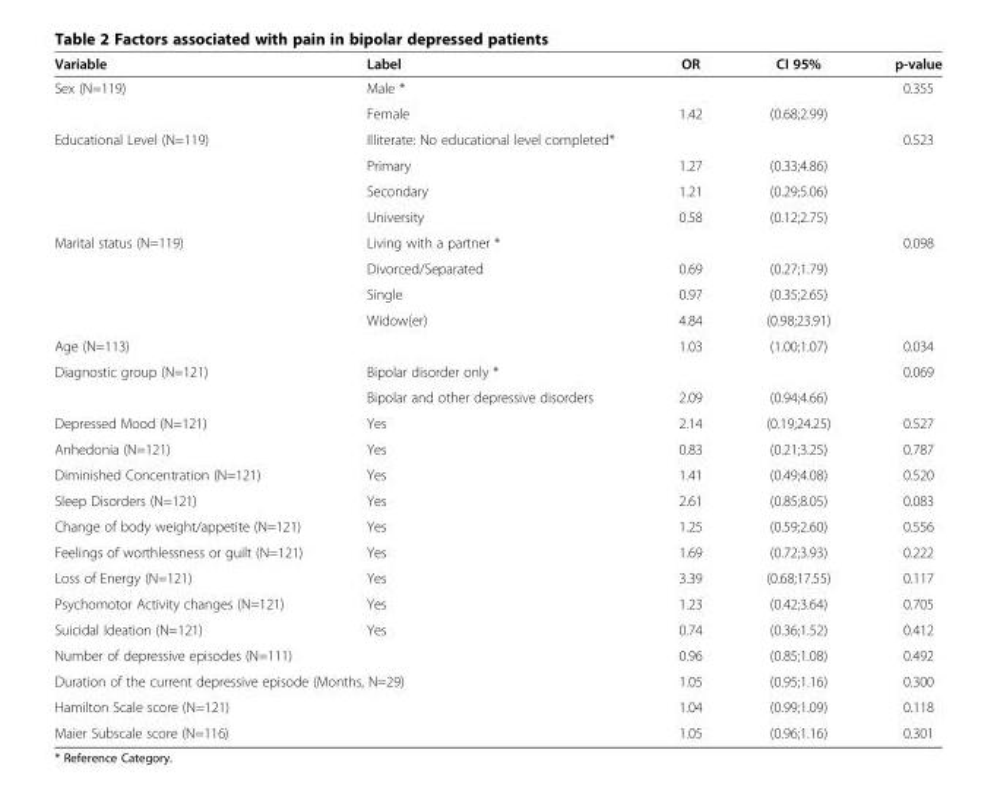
<table><thead><tr><td>Variable</td><td>Label</td><td>OR</td><td>CI 95%</td><td>p-value</td></tr></thead><tbody><tr><td rowspan="2">Sex (N=119)</td><td>Male *</td><td></td><td></td><td>0.355</td></tr><tr><td>Female</td><td>1.42</td><td>(0.68;2.99)</td><td></td></tr><tr><td rowspan="4">Educational Level (N=119)</td><td>Illiterate: No educational level completed*</td><td></td><td></td><td>0.523</td></tr><tr><td>Primary</td><td>1.27</td><td>(0.33;4.86)</td><td></td></tr><tr><td>Secondary</td><td>1.21</td><td>(0.29;5.06)</td><td></td></tr><tr><td>University</td><td>0.58</td><td>(0.12;2.75)</td><td></td></tr><tr><td rowspan="4">Marital status (N=119)</td><td>Living with a partner *</td><td></td><td></td><td>0.098</td></tr><tr><td>Divorced/Separated</td><td>0.69</td><td>(0.27;1.79)</td><td></td></tr><tr><td>Single</td><td>0.97</td><td>(0.35;2.65)</td><td></td></tr><tr><td>Widow(er)</td><td>4.84</td><td>(0.98;23.91)</td><td></td></tr><tr><td colspan="2">Age (N=113)</td><td>1.03</td><td>(1.00;1.07)</td><td>0.034</td></tr><tr><td rowspan="2">Diagnostic group (N=121)</td><td>Bipolar disorder only *</td><td></td><td></td><td>0.069</td></tr><tr><td>Bipolar and other depressive disorders</td><td>2.09</td><td>(0.94;4.66)</td><td></td></tr><tr><td>Depressed Mood (N=121)</td><td>Yes</td><td>2.14</td><td>(0.19;24.25)</td><td>0.527</td></tr><tr><td>Anhedonia (N=121)</td><td>Yes</td><td>0.83</td><td>(0.21;3.25)</td><td>0.787</td></tr><tr><td>Diminished Concentration (N=121)</td><td>Yes</td><td>1.41</td><td>(0.49;4.08)</td><td>0.520</td></tr><tr><td>Sleep Disorders (N=121)</td><td>Yes</td><td>2.61</td><td>(0.85;8.05)</td><td>0.083</td></tr><tr><td>Change of body weight/appetite (N=121)</td><td>Yes</td><td>1.25</td><td>(0.59;2.60)</td><td>0.556</td></tr><tr><td>Feelings of worthlessness or guilt (N=121)</td><td>Yes</td><td>1.69</td><td>(0.72;3.93)</td><td>0.222</td></tr><tr><td>Loss of Energy (N=121)</td><td>Yes</td><td>3.39</td><td>(0.68;17.55)</td><td>0.117</td></tr><tr><td>Psychomotor Activity changes (N=121)</td><td>Yes</td><td>1.23</td><td>(0.42;3.64)</td><td>0.705</td></tr><tr><td>Suicidal Ideation (N=121)</td><td>Yes</td><td>0.74</td><td>(0.36;1.52)</td><td>0.412</td></tr><tr><td colspan="2">Number of depressive episodes (N=111)</td><td>0.96</td><td>(0.85;1.08)</td><td>0.492</td></tr><tr><td colspan="2">Duration of the current depressive episode (Months, N=29)</td><td>1.05</td><td>(0.95;1.16)</td><td>0.300</td></tr><tr><td colspan="2">Hamilton Scale score (N=121)</td><td>1.04</td><td>(0.99;1.09)</td><td>0.118</td></tr><tr><td colspan="2">Maier Subscale score (N=116)</td><td>1.05</td><td>(0.96;1.16)</td><td>0.301</td></tr></tbody></table>